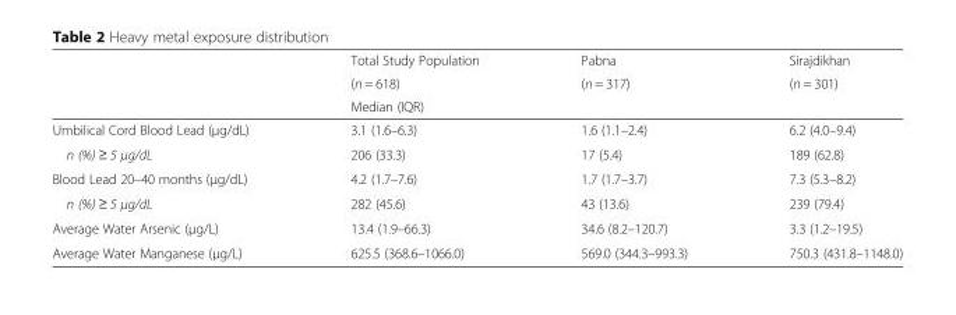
<table><thead><tr><td rowspan="3"></td><td rowspan="2">Total Study Population (n = 618)</td><td rowspan="2">Pabna (n = 317)</td><td rowspan="2">Sirajdikhan (n = 301)</td></tr><tr></tr><tr><td colspan="3">Median (IQR)</td></tr></thead><tbody><tr><td>Umbilical Cord Blood Lead (μg/dL)</td><td>3.1 (1.6–6.3)</td><td>1.6 (1.1–2.4)</td><td>6.2 (4.0–9.4)</td></tr><tr><td>n (%) ≥ 5 μg/dL</td><td>206 (33.3)</td><td>17 (5.4)</td><td>189 (62.8)</td></tr><tr><td>Blood Lead 20–40 months (μg/dL)</td><td>4.2 (1.7–7.6)</td><td>1.7 (1.7–3.7)</td><td>7.3 (5.3–8.2)</td></tr><tr><td>n (%) ≥ 5 μg/dL</td><td>282 (45.6)</td><td>43 (13.6)</td><td>239 (79.4)</td></tr><tr><td>Average Water Arsenic (μg/L)</td><td>13.4 (1.9–66.3)</td><td>34.6 (8.2–120.7)</td><td>3.3 (1.2–19.5)</td></tr><tr><td>Average Water Manganese (μg/L)</td><td>625.5 (368.6–1066.0)</td><td>569.0 (344.3–993.3)</td><td>750.3 (431.8–1148.0)</td></tr></tbody></table>